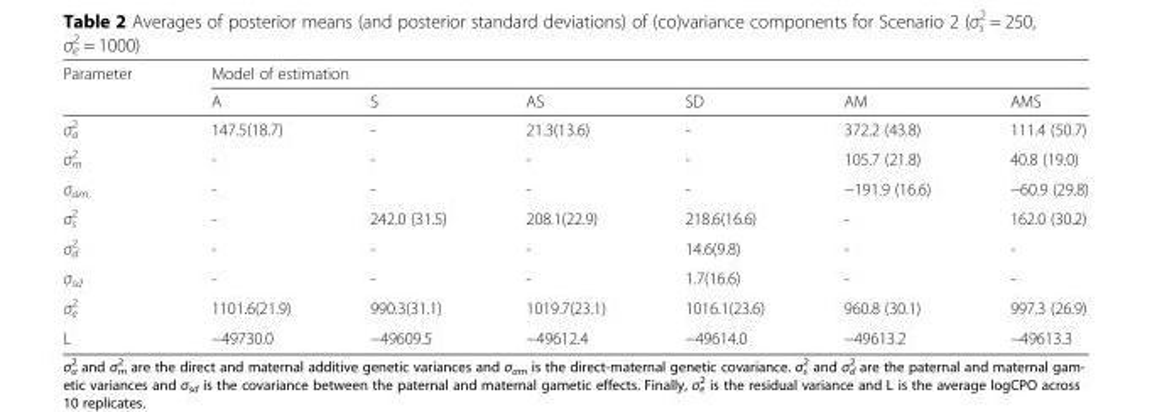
<table><thead><tr><td rowspan="2">Parameter</td><td colspan="6">Model of estimation</td></tr><tr><td>A</td><td>S</td><td>AS</td><td>SD</td><td>AM</td><td>AMS</td></tr></thead><tbody><tr><td>σ<sub>a</sub> <sup>2</sup></td><td>147.5(18.7)</td><td>-</td><td>21.3(13.6)</td><td>-</td><td>372.2 (43.8)</td><td>111.4 (50.7)</td></tr><tr><td>σ<sub>m</sub> <sup>2</sup></td><td>-</td><td>-</td><td>-</td><td>-</td><td>105.7 (21.8)</td><td>40.8 (19.0)</td></tr><tr><td>σ<sub>am</sub></td><td>-</td><td>-</td><td>-</td><td>-</td><td>−191.9 (16.6)</td><td>−60.9 (29.8)</td></tr><tr><td>σ<sub>s</sub> <sup>2</sup></td><td>-</td><td>242.0 (31.5)</td><td>208.1(22.9)</td><td>218.6(16.6)</td><td>-</td><td>162.0 (30.2)</td></tr><tr><td>σ<sub>d</sub> <sup>2</sup></td><td>-</td><td>-</td><td>-</td><td>14.6(9.8)</td><td>-</td><td>-</td></tr><tr><td>σ<sub>sd</sub></td><td>-</td><td>-</td><td>-</td><td>1.7(16.6)</td><td>-</td><td>-</td></tr><tr><td>σ<sub>e</sub> <sup>2</sup></td><td>1101.6(21.9)</td><td>990.3(31.1)</td><td>1019.7(23.1)</td><td>1016.1(23.6)</td><td>960.8 (30.1)</td><td>997.3 (26.9)</td></tr><tr><td>L</td><td>−49730.0</td><td>−49609.5</td><td>−49612.4</td><td>−49614.0</td><td>−49613.2</td><td>−49613.3</td></tr></tbody></table>